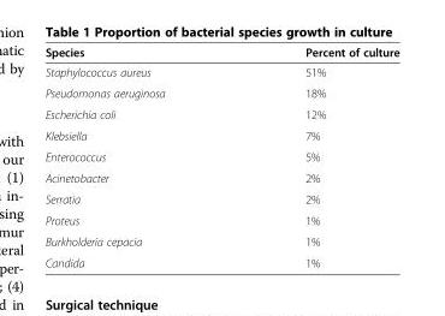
<table><thead><tr><td>Species</td><td>Percent of culture</td></tr></thead><tbody><tr><td>Staphylococcus aureus</td><td>51%</td></tr><tr><td>Pseudomonas aeruginosa</td><td>18%</td></tr><tr><td>Escherichia coli</td><td>12%</td></tr><tr><td>Klebsiella</td><td>7%</td></tr><tr><td>Enterococcus</td><td>5%</td></tr><tr><td>Acinetobacter</td><td>2%</td></tr><tr><td>Serratia</td><td>2%</td></tr><tr><td>Proteus</td><td>1%</td></tr><tr><td>Burkholderia cepacia</td><td>1%</td></tr><tr><td>Candida</td><td>1%</td></tr></tbody></table>